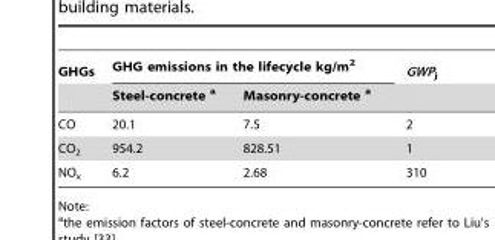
<table><thead><tr><td rowspan="2">GHGs</td><td colspan="2">GHG emissions in the lifecycle kg/m<sup>2</sup></td><td rowspan="2">GWP<sub>j</sub></td></tr><tr><td>Steel-concrete a</td><td>Masonry-concrete a</td></tr></thead><tbody><tr><td>CO</td><td>20.1</td><td>7.5</td><td>2</td></tr><tr><td>CO<sub>2</sub></td><td>954.2</td><td>828.51</td><td>1</td></tr><tr><td>NO<sub>x</sub></td><td>6.2</td><td>2.68</td><td>310</td></tr></tbody></table>